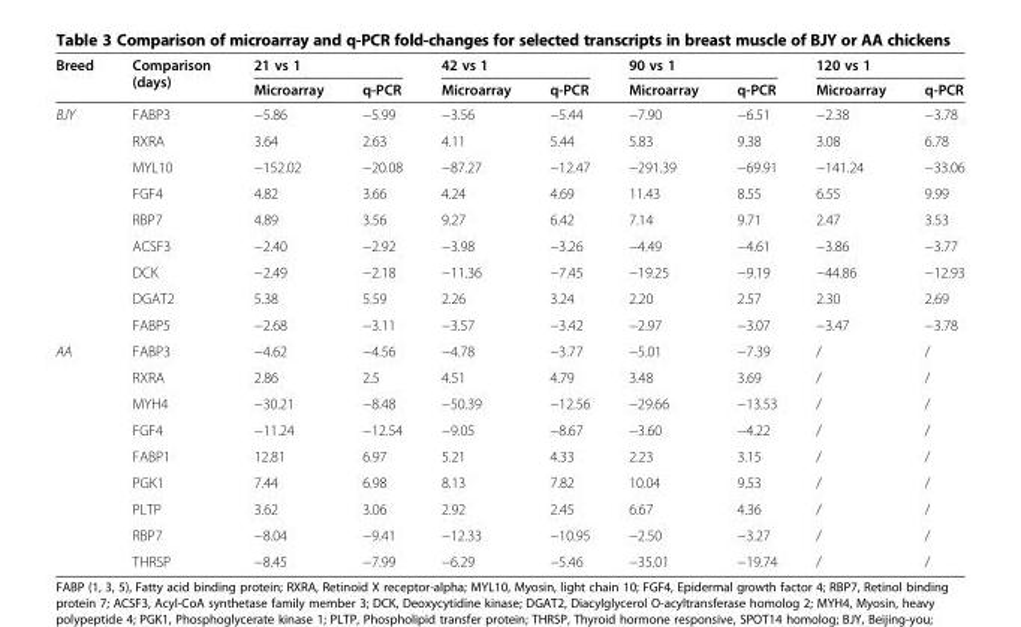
<table><thead><tr><td rowspan="2">Breed</td><td rowspan="2">Comparison (days)</td><td colspan="2">21 vs 1</td><td colspan="2">42 vs 1</td><td colspan="2">90 vs 1</td><td colspan="2">120 vs 1</td></tr><tr><td>Microarray</td><td>q-PCR</td><td>Microarray</td><td>q-PCR</td><td>Microarray</td><td>q-PCR</td><td>Microarray</td><td>q-PCR</td></tr></thead><tbody><tr><td rowspan="9">BJY</td><td>FABP3</td><td>−5.86</td><td>−5.99</td><td>−3.56</td><td>−5.44</td><td>−7.90</td><td>−6.51</td><td>−2.38</td><td>−3.78</td></tr><tr><td>RXRA</td><td>3.64</td><td>2.63</td><td>4.11</td><td>5.44</td><td>5.83</td><td>9.38</td><td>3.08</td><td>6.78</td></tr><tr><td>MYL10</td><td>−152.02</td><td>−20.08</td><td>−87.27</td><td>−12.47</td><td>−291.39</td><td>−69.91</td><td>−141.24</td><td>−33.06</td></tr><tr><td>FGF4</td><td>4.82</td><td>3.66</td><td>4.24</td><td>4.69</td><td>11.43</td><td>8.55</td><td>6.55</td><td>9.99</td></tr><tr><td>RBP7</td><td>4.89</td><td>3.56</td><td>9.27</td><td>6.42</td><td>7.14</td><td>9.71</td><td>2.47</td><td>3.53</td></tr><tr><td>ACSF3</td><td>−2.40</td><td>−2.92</td><td>−3.98</td><td>−3.26</td><td>−4.49</td><td>−4.61</td><td>−3.86</td><td>−3.77</td></tr><tr><td>DCK</td><td>−2.49</td><td>−2.18</td><td>−11.36</td><td>−7.45</td><td>−19.25</td><td>−9.19</td><td>−44.86</td><td>−12.93</td></tr><tr><td>DGAT2</td><td>5.38</td><td>5.59</td><td>2.26</td><td>3.24</td><td>2.20</td><td>2.57</td><td>2.30</td><td>2.69</td></tr><tr><td>FABP5</td><td>−2.68</td><td>−3.11</td><td>−3.57</td><td>−3.42</td><td>−2.97</td><td>−3.07</td><td>−3.47</td><td>−3.78</td></tr><tr><td rowspan="9">AA</td><td>FABP3</td><td>−4.62</td><td>−4.56</td><td>−4.78</td><td>−3.77</td><td>−5.01</td><td>−7.39</td><td>/</td><td>/</td></tr><tr><td>RXRA</td><td>2.86</td><td>2.5</td><td>4.51</td><td>4.79</td><td>3.48</td><td>3.69</td><td>/</td><td>/</td></tr><tr><td>MYH4</td><td>−30.21</td><td>−8.48</td><td>−50.39</td><td>−12.56</td><td>−29.66</td><td>−13.53</td><td>/</td><td>/</td></tr><tr><td>FGF4</td><td>−11.24</td><td>−12.54</td><td>−9.05</td><td>−8.67</td><td>−3.60</td><td>−4.22</td><td>/</td><td>/</td></tr><tr><td>FABP1</td><td>12.81</td><td>6.97</td><td>5.21</td><td>4.33</td><td>2.23</td><td>3.15</td><td>/</td><td>/</td></tr><tr><td>PGK1</td><td>7.44</td><td>6.98</td><td>8.13</td><td>7.82</td><td>10.04</td><td>9.53</td><td>/</td><td>/</td></tr><tr><td>PLTP</td><td>3.62</td><td>3.06</td><td>2.92</td><td>2.45</td><td>6.67</td><td>4.36</td><td>/</td><td>/</td></tr><tr><td>RBP7</td><td>−8.04</td><td>−9.41</td><td>−12.33</td><td>−10.95</td><td>−2.50</td><td>−3.27</td><td>/</td><td>/</td></tr><tr><td>THRSP</td><td>−8.45</td><td>−7.99</td><td>−6.29</td><td>−5.46</td><td>−35.01</td><td>−19.74</td><td>/</td><td>/</td></tr></tbody></table>